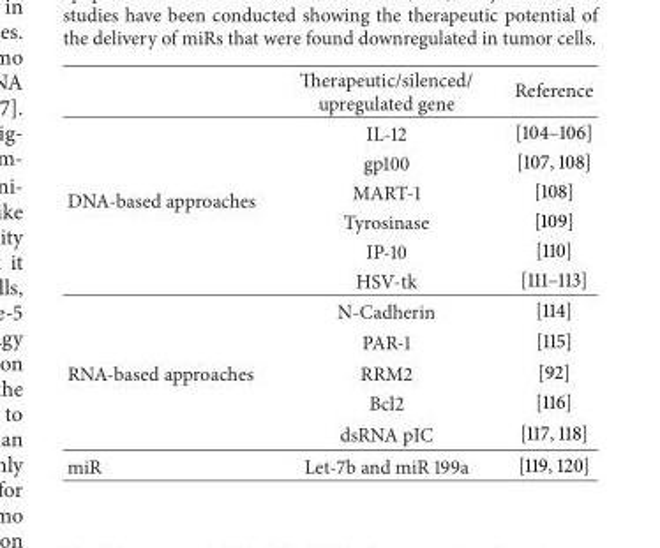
<table><thead><tr><td></td><td>Therapeutic/silenced/ upregulated gene</td><td>Reference</td></tr></thead><tbody><tr><td rowspan="8">DNA-based approaches</td><td>IL-12</td><td>[104–106]</td></tr><tr><td>gp100</td><td>[107, 108]</td></tr><tr><td>MART-1</td><td>[108]</td></tr><tr><td>Tyrosinase</td><td>[109]</td></tr><tr><td>IP-10</td><td>[110]</td></tr><tr><td>HSV-tk</td><td>[111–113]</td></tr><tr><td>N-Cadherin</td><td>[114]</td></tr><tr><td>PAR-1</td><td>[115]</td></tr><tr><td rowspan="3">RNA-based approaches</td><td>RRM2</td><td>[92]</td></tr><tr><td>Bcl2</td><td>[116]</td></tr><tr><td>dsRNA pIC</td><td>[117, 118]</td></tr><tr><td>miR</td><td>Let-7b and miR 199a</td><td>[119, 120]</td></tr></tbody></table>